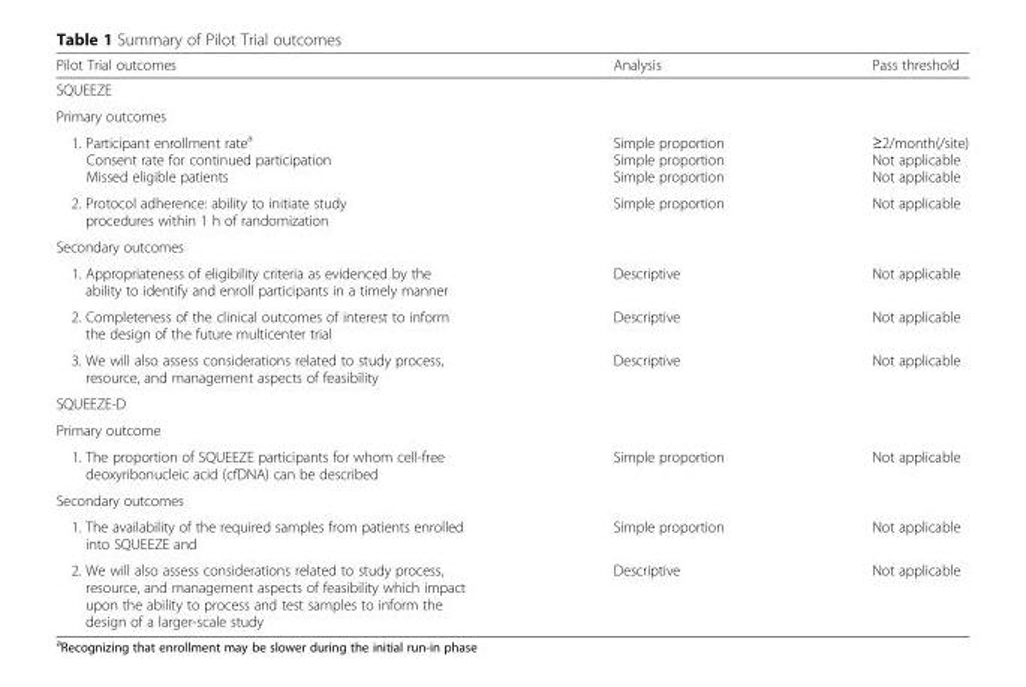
<table><thead><tr><td>Pilot Trial outcomes</td><td>Analysis</td><td>Pass threshold</td></tr></thead><tbody><tr><td colspan="3">SQUEEZE</td></tr><tr><td colspan="3">Primary outcomes</td></tr><tr><td>1. Participant enrollment rate<sup>a</sup> Consent rate for continued participation Missed eligible patients</td><td>Simple proportion Simple proportion Simple proportion</td><td>≥2/month(/site) Not applicable Not applicable</td></tr><tr><td>2. Protocol adherence: ability to initiate study procedures within 1 h of randomization</td><td>Simple proportion</td><td>Not applicable</td></tr><tr><td colspan="3">Secondary outcomes</td></tr><tr><td>1. Appropriateness of eligibility criteria as evidenced by the ability to identify and enroll participants in a timely manner</td><td>Descriptive</td><td>Not applicable</td></tr><tr><td>2. Completeness of the clinical outcomes of interest to inform the design of the future multicenter trial</td><td>Descriptive</td><td>Not applicable</td></tr><tr><td>3. We will also assess considerations related to study process, resource, and management aspects of feasibility</td><td>Descriptive</td><td>Not applicable</td></tr><tr><td colspan="3">SQUEEZE-D</td></tr><tr><td colspan="3">Primary outcome</td></tr><tr><td>1. The proportion of SQUEEZE participants for whom cell-free deoxyribonucleic acid (cfDNA) can be described</td><td>Simple proportion</td><td>Not applicable</td></tr><tr><td colspan="3">Secondary outcomes</td></tr><tr><td>1. The availability of the required samples from patients enrolled into SQUEEZE and</td><td>Simple proportion</td><td>Not applicable</td></tr><tr><td>2. We will also assess considerations related to study process, resource, and management aspects of feasibility which impact upon the ability to process and test samples to inform the design of a larger-scale study</td><td>Descriptive</td><td>Not applicable</td></tr></tbody></table>